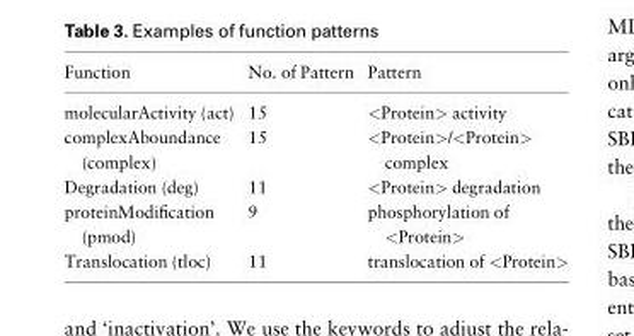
<table><thead><tr><td>Function</td><td>No. of Pattern</td><td>Pattern</td></tr></thead><tbody><tr><td>molecularActivity (act)</td><td>15</td><td>&lt;Protein&gt; activity</td></tr><tr><td>complexAboundance (complex)</td><td>15</td><td>&lt;Protein&gt;/&lt;Protein&gt; complex</td></tr><tr><td>Degradation (deg)</td><td>11</td><td>&lt;Protein&gt; degradation</td></tr><tr><td>proteinModification (pmod)</td><td>9</td><td>phosphorylation of &lt;Protein&gt;</td></tr><tr><td>Translocation (tloc)</td><td>11</td><td>translocation of &lt;Protein&gt;</td></tr></tbody></table>